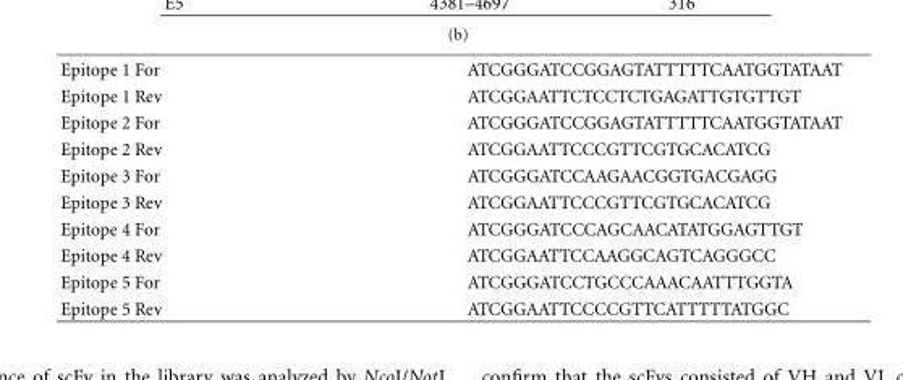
<table><tbody><tr><td>Epitope 1 For</td><td>ATCGGGATCCGGAGTATTTTTCAATGGTATAAT</td></tr><tr><td>Epitope 1 Rev</td><td>ATCGGAATTCTCCTCTGAGATTGTGTTGT</td></tr><tr><td>Epitope 2 For</td><td>ATCGGGATCCGGAGTATTTTTCAATGGTATAAT</td></tr><tr><td>Epitope 2 Rev</td><td>ATCGGAATTCCCGTTCGTGCACATCG</td></tr><tr><td>Epitope 3 For</td><td>ATCGGGATCCAAGAACGGTGACGAGG</td></tr><tr><td>Epitope 3 Rev</td><td>ATCGGAATTCCCGTTCGTGCACATCG</td></tr><tr><td>Epitope 4 For</td><td>ATCGGGATCCCAGCAACATATGGAGTTGT</td></tr><tr><td>Epitope 4 Rev</td><td>ATCGGAATTCCAAGGCAGTCAGGGCC</td></tr><tr><td>Epitope 5 For</td><td>ATCGGGATCCTGCCCAAACAATTTGGTA</td></tr><tr><td>Epitope 5 Rev</td><td>ATCGGAATTCCCCGTTCATTTTTATGGC</td></tr></tbody></table>